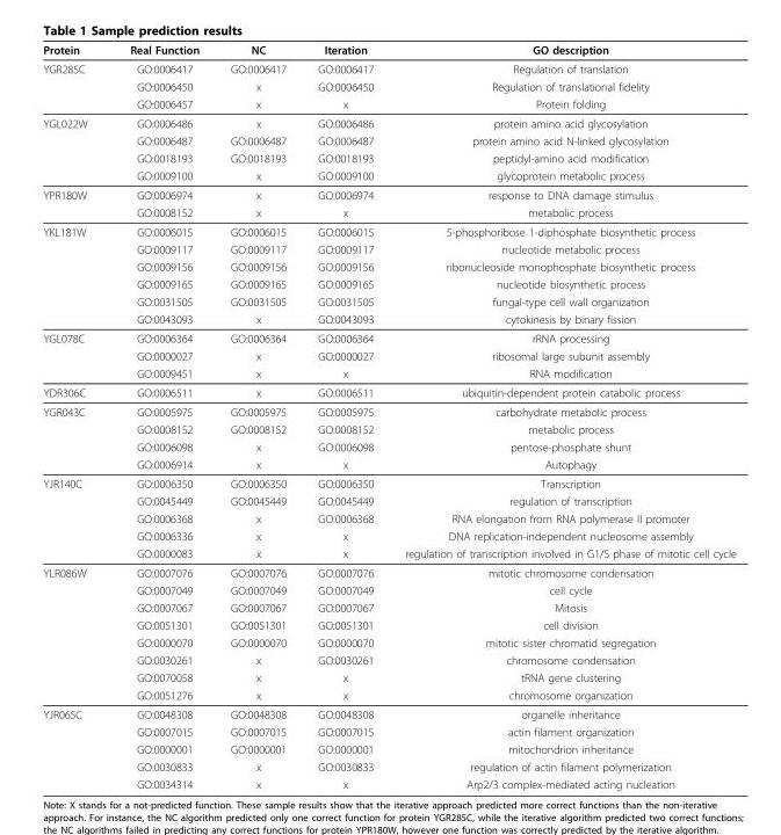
<table><thead><tr><td>Protein</td><td>Real Function</td><td>NC</td><td>Iteration</td><td>GO description</td></tr></thead><tbody><tr><td rowspan="3">YGR285C</td><td>GO:0006417</td><td>GO:0006417</td><td>GO:0006417</td><td>Regulation of translation</td></tr><tr><td>GO:0006450</td><td>x</td><td>GO:0006450</td><td>Regulation of translational fidelity</td></tr><tr><td>GO:0006457</td><td>x</td><td>x</td><td>Protein folding</td></tr><tr><td rowspan="4">YGL022W</td><td>GO:0006486</td><td>x</td><td>GO:0006486</td><td>protein amino acid glycosylation</td></tr><tr><td>GO:0006487</td><td>GO:0006487</td><td>GO:0006487</td><td>protein amino acid N-linked glycosylation</td></tr><tr><td>GO:0018193</td><td>GO:0018193</td><td>GO:0018193</td><td>peptidyl-amino acid modification</td></tr><tr><td>GO:0009100</td><td>x</td><td>GO:0009100</td><td>glycoprotein metabolic process</td></tr><tr><td rowspan="2">YPR180W</td><td>GO:0006974</td><td>x</td><td>GO:0006974</td><td>response to DNA damage stimulus</td></tr><tr><td>GO:0008152</td><td>x</td><td>x</td><td>metabolic process</td></tr><tr><td rowspan="6">YKL181W</td><td>GO:0006015</td><td>GO:0006015</td><td>GO:0006015</td><td>5-phosphoribose 1-diphosphate biosynthetic process</td></tr><tr><td>GO:0009117</td><td>GO:0009117</td><td>GO:0009117</td><td>nucleotide metabolic process</td></tr><tr><td>GO:0009156</td><td>GO:0009156</td><td>GO:0009156</td><td>ribonucleoside monophosphate biosynthetic process</td></tr><tr><td>GO:0009165</td><td>GO:0009165</td><td>GO:0009165</td><td>nucleotide biosynthetic process</td></tr><tr><td>GO:0031505</td><td>GO:0031505</td><td>GO:0031505</td><td>fungal-type cell wall organization</td></tr><tr><td>GO:0043093</td><td>x</td><td>GO:0043093</td><td>cytokinesis by binary fission</td></tr><tr><td rowspan="3">YGL078C</td><td>GO:0006364</td><td>GO:0006364</td><td>GO:0006364</td><td>rRNA processing</td></tr><tr><td>GO:0000027</td><td>x</td><td>GO:0000027</td><td>ribosomal large subunit assembly</td></tr><tr><td>GO:0009451</td><td>x</td><td>x</td><td>RNA modification</td></tr><tr><td>YDR306C</td><td>GO:0006511</td><td>x</td><td>GO:0006511</td><td>ubiquitin-dependent protein catabolic process</td></tr><tr><td rowspan="4">YGR043C</td><td>GO:0005975</td><td>GO:0005975</td><td>GO:0005975</td><td>carbohydrate metabolic process</td></tr><tr><td>GO:0008152</td><td>GO:0008152</td><td>GO:0008152</td><td>metabolic process</td></tr><tr><td>GO:0006098</td><td>x</td><td>GO:0006098</td><td>pentose-phosphate shunt</td></tr><tr><td>GO:0006914</td><td>x</td><td>x</td><td>Autophagy</td></tr><tr><td rowspan="5">YJR140C</td><td>GO:0006350</td><td>GO:0006350</td><td>GO:0006350</td><td>Transcription</td></tr><tr><td>GO:0045449</td><td>GO:0045449</td><td>GO:0045449</td><td>regulation of transcription</td></tr><tr><td>GO:0006368</td><td>x</td><td>GO:0006368</td><td>RNA elongation from RNA polymerase II promoter</td></tr><tr><td>GO:0006336</td><td>x</td><td>x</td><td>DNA replication-independent nucleosome assembly</td></tr><tr><td>GO:0000083</td><td>x</td><td>x</td><td>regulation of transcription involved in G1/S phase of mitotic cell cycle</td></tr><tr><td rowspan="8">YLR086W</td><td>GO:0007076</td><td>GO:0007076</td><td>GO:0007076</td><td>mitotic chromosome condensation</td></tr><tr><td>GO:0007049</td><td>GO:0007049</td><td>GO:0007049</td><td>cell cycle</td></tr><tr><td>GO:0007067</td><td>GO:0007067</td><td>GO:0007067</td><td>Mitosis</td></tr><tr><td>GO:0051301</td><td>GO:0051301</td><td>GO:0051301</td><td>cell division</td></tr><tr><td>GO:0000070</td><td>GO:0000070</td><td>GO:0000070</td><td>mitotic sister chromatid segregation</td></tr><tr><td>GO:0030261</td><td>x</td><td>GO:0030261</td><td>chromosome condensation</td></tr><tr><td>GO:0070058</td><td>x</td><td>x</td><td>tRNA gene clustering</td></tr><tr><td>GO:0051276</td><td>x</td><td>x</td><td>chromosome organization</td></tr><tr><td rowspan="5">YJR065C</td><td>GO:0048308</td><td>GO:0048308</td><td>GO:0048308</td><td>organelle inheritance</td></tr><tr><td>GO:0007015</td><td>GO:0007015</td><td>GO:0007015</td><td>actin filament organization</td></tr><tr><td>GO:0000001</td><td>GO:0000001</td><td>GO:0000001</td><td>mitochondrion inheritance</td></tr><tr><td>GO:0030833</td><td>x</td><td>GO:0030833</td><td>regulation of actin filament polymerization</td></tr><tr><td>GO:0034314</td><td>x</td><td>x</td><td>Arp2/3 complex-mediated acting nucleation</td></tr></tbody></table>